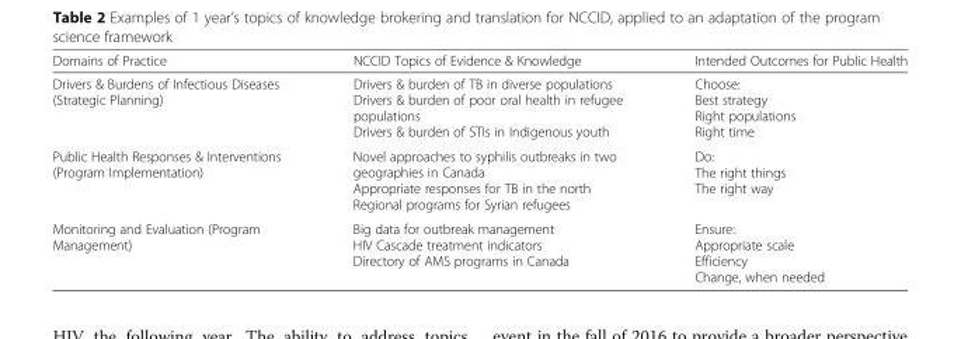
<table><thead><tr><td>Domains of Practice</td><td>NCCID Topics of Evidence &amp; Knowledge</td><td>Intended Outcomes for Public Health</td></tr></thead><tbody><tr><td>Drivers &amp; Burdens of Infectious Diseases (Strategic Planning)</td><td>Drivers &amp; burden of TB in diverse populations Drivers &amp; burden of poor oral health in refugee populations Drivers &amp; burden of STIs in Indigenous youth</td><td>Choose: Best strategy Right populations Right time</td></tr><tr><td>Public Health Responses &amp; Interventions (Program Implementation)</td><td>Novel approaches to syphilis outbreaks in two geographies in Canada Appropriate responses for TB in the north Regional programs for Syrian refugees</td><td>Do: The right things The right way</td></tr><tr><td>Monitoring and Evaluation (Program Management)</td><td>Big data for outbreak management HIV Cascade treatment indicators Directory of AMS programs in Canada</td><td>Ensure: Appropriate scale Efficiency Change, when needed</td></tr></tbody></table>